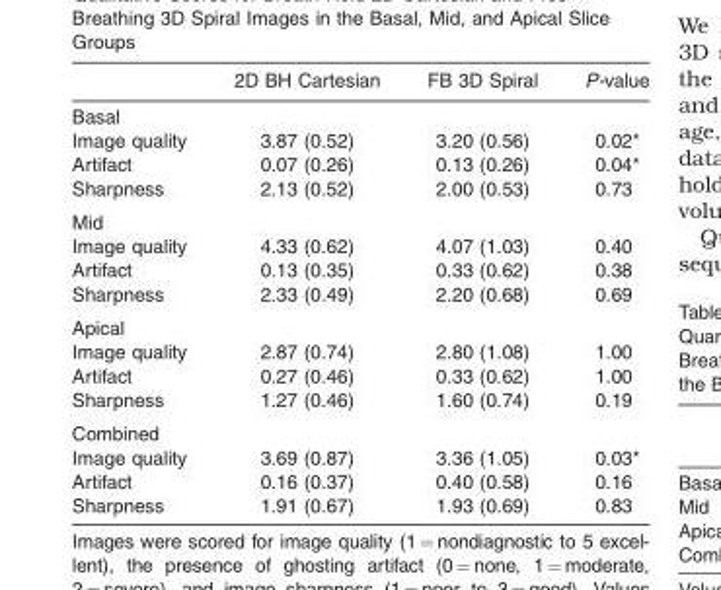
<table><thead><tr><td></td><td>2D BH Cartesian</td><td>FB 3D Spiral</td><td>P-value</td></tr></thead><tbody><tr><td colspan="4">Basal</td></tr><tr><td>Image quality</td><td>3.87 (0.52)</td><td>3.20 (0.56)</td><td>0.02*</td></tr><tr><td>Artifact</td><td>0.07 (0.26)</td><td>0.13 (0.26)</td><td>0.04*</td></tr><tr><td>Sharpness</td><td>2.13 (0.52)</td><td>2.00 (0.53)</td><td>0.73</td></tr><tr><td colspan="4">Mid</td></tr><tr><td>Image quality</td><td>4.33 (0.62)</td><td>4.07 (1.03)</td><td>0.40</td></tr><tr><td>Artifact</td><td>0.13 (0.35)</td><td>0.33 (0.62)</td><td>0.38</td></tr><tr><td>Sharpness</td><td>2.33 (0.49)</td><td>2.20 (0.68)</td><td>0.69</td></tr><tr><td colspan="4">Apical</td></tr><tr><td>Image quality</td><td>2.87 (0.74)</td><td>2.80 (1.08)</td><td>1.00</td></tr><tr><td>Artifact</td><td>0.27 (0.46)</td><td>0.33 (0.62)</td><td>1.00</td></tr><tr><td>Sharpness</td><td>1.27 (0.46)</td><td>1.60 (0.74)</td><td>0.19</td></tr><tr><td colspan="4">Combined</td></tr><tr><td>Image quality</td><td>3.69 (0.87)</td><td>3.36 (1.05)</td><td>0.03*</td></tr><tr><td>Artifact</td><td>0.16 (0.37)</td><td>0.40 (0.58)</td><td>0.16</td></tr><tr><td>Sharpness</td><td>1.91 (0.67)</td><td>1.93 (0.69)</td><td>0.83</td></tr></tbody></table>